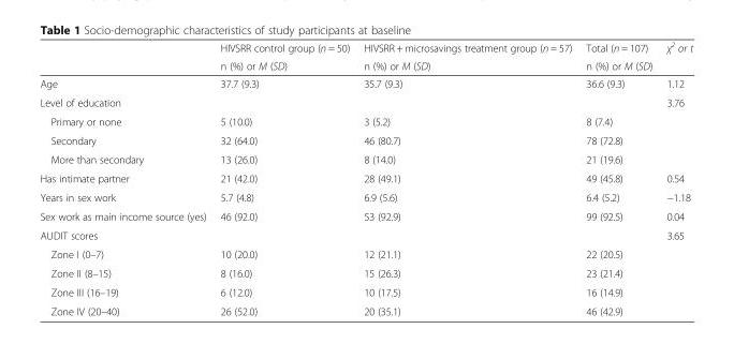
<table><thead><tr><td rowspan="2"></td><td rowspan="2">HIVSRR control group (n = 50) n (%) or M (SD)</td><td rowspan="2">HIVSRR + microsavings treatment group (n = 57) n (%) or M (SD)</td><td rowspan="2">Total (n = 107) n (%) or M (SD)</td><td rowspan="2">χ<sup>2</sup> or t</td></tr><tr></tr></thead><tbody><tr><td>Age</td><td>37.7 (9.3)</td><td>35.7 (9.3)</td><td>36.6 (9.3)</td><td>1.12</td></tr><tr><td>Level of education</td><td></td><td></td><td></td><td>3.76</td></tr><tr><td>Primary or none</td><td>5 (10.0)</td><td>3 (5.2)</td><td>8 (7.4)</td><td></td></tr><tr><td>Secondary</td><td>32 (64.0)</td><td>46 (80.7)</td><td>78 (72.8)</td><td></td></tr><tr><td>More than secondary</td><td>13 (26.0)</td><td>8 (14.0)</td><td>21 (19.6)</td><td></td></tr><tr><td>Has intimate partner</td><td>21 (42.0)</td><td>28 (49.1)</td><td>49 (45.8)</td><td>0.54</td></tr><tr><td>Years in sex work</td><td>5.7 (4.8)</td><td>6.9 (5.6)</td><td>6.4 (5.2)</td><td>−1.18</td></tr><tr><td>Sex work as main income source (yes)</td><td>46 (92.0)</td><td>53 (92.9)</td><td>99 (92.5)</td><td>0.04</td></tr><tr><td>AUDIT scores</td><td></td><td></td><td></td><td>3.65</td></tr><tr><td>Zone I (0–7)</td><td>10 (20.0)</td><td>12 (21.1)</td><td>22 (20.5)</td><td></td></tr><tr><td>Zone II (8–15)</td><td>8 (16.0)</td><td>15 (26.3)</td><td>23 (21.4)</td><td></td></tr><tr><td>Zone III (16–19)</td><td>6 (12.0)</td><td>10 (17.5)</td><td>16 (14.9)</td><td></td></tr><tr><td>Zone IV (20–40)</td><td>26 (52.0)</td><td>20 (35.1)</td><td>46 (42.9)</td><td></td></tr></tbody></table>